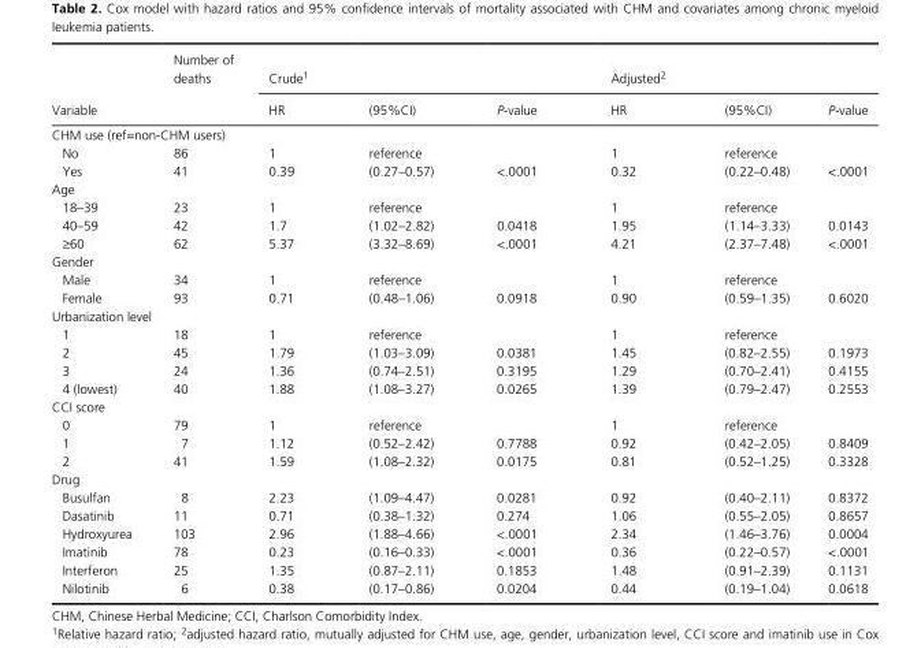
<table><thead><tr><td rowspan="2">Variable</td><td rowspan="2">Number of deaths</td><td colspan="3">Crude<sup>1</sup></td><td colspan="3">Adjusted<sup>2</sup></td></tr><tr><td>HR</td><td>(95%CI)</td><td>P- value</td><td>HR</td><td>(95%CI)</td><td>P- value</td></tr></thead><tbody><tr><td colspan="8">CHM use (ref=non- CHM users)</td></tr><tr><td>No</td><td>86</td><td>1</td><td>reference</td><td></td><td>1</td><td>reference</td><td></td></tr><tr><td>Yes</td><td>41</td><td>0.39</td><td>(0.27–0.57)</td><td>&lt;.0001</td><td>0.32</td><td>(0.22–0.48)</td><td>&lt;.0001</td></tr><tr><td colspan="8">Age</td></tr><tr><td>18–39</td><td>23</td><td>1</td><td>reference</td><td></td><td>1</td><td>reference</td><td></td></tr><tr><td>40–59</td><td>42</td><td>1.7</td><td>(1.02–2.82)</td><td>0.0418</td><td>1.95</td><td>(1.14–3.33)</td><td>0.0143</td></tr><tr><td>≥60</td><td>62</td><td>5.37</td><td>(3.32–8.69)</td><td>&lt;.0001</td><td>4.21</td><td>(2.37–7.48)</td><td>&lt;.0001</td></tr><tr><td colspan="8">Gender</td></tr><tr><td>Male</td><td>34</td><td>1</td><td>reference</td><td></td><td>1</td><td>reference</td><td></td></tr><tr><td>Female</td><td>93</td><td>0.71</td><td>(0.48–1.06)</td><td>0.0918</td><td>0.90</td><td>(0.59–1.35)</td><td>0.6020</td></tr><tr><td colspan="8">Urbanization level</td></tr><tr><td>1</td><td>18</td><td>1</td><td>reference</td><td></td><td>1</td><td>reference</td><td></td></tr><tr><td>2</td><td>45</td><td>1.79</td><td>(1.03–3.09)</td><td>0.0381</td><td>1.45</td><td>(0.82–2.55)</td><td>0.1973</td></tr><tr><td>3</td><td>24</td><td>1.36</td><td>(0.74–2.51)</td><td>0.3195</td><td>1.29</td><td>(0.70–2.41)</td><td>0.4155</td></tr><tr><td>4 (lowest)</td><td>40</td><td>1.88</td><td>(1.08–3.27)</td><td>0.0265</td><td>1.39</td><td>(0.79–2.47)</td><td>0.2553</td></tr><tr><td colspan="8">CCI score</td></tr><tr><td>0</td><td>79</td><td>1</td><td>reference</td><td></td><td>1</td><td>reference</td><td></td></tr><tr><td>1</td><td>7</td><td>1.12</td><td>(0.52–2.42)</td><td>0.7788</td><td>0.92</td><td>(0.42–2.05)</td><td>0.8409</td></tr><tr><td>2</td><td>41</td><td>1.59</td><td>(1.08–2.32)</td><td>0.0175</td><td>0.81</td><td>(0.52–1.25)</td><td>0.3328</td></tr><tr><td colspan="8">Drug</td></tr><tr><td>Busulfan</td><td>8</td><td>2.23</td><td>(1.09–4.47)</td><td>0.0281</td><td>0.92</td><td>(0.40–2.11)</td><td>0.8372</td></tr><tr><td>Dasatinib</td><td>11</td><td>0.71</td><td>(0.38–1.32)</td><td>0.274</td><td>1.06</td><td>(0.55–2.05)</td><td>0.8657</td></tr><tr><td>Hydroxyurea</td><td>103</td><td>2.96</td><td>(1.88–4.66)</td><td>&lt;.0001</td><td>2.34</td><td>(1.46–3.76)</td><td>0.0004</td></tr><tr><td>Imatinib</td><td>78</td><td>0.23</td><td>(0.16–0.33)</td><td>&lt;.0001</td><td>0.36</td><td>(0.22–0.57)</td><td>&lt;.0001</td></tr><tr><td>Interferon</td><td>25</td><td>1.35</td><td>(0.87–2.11)</td><td>0.1853</td><td>1.48</td><td>(0.91–2.39)</td><td>0.1131</td></tr><tr><td>Nilotinib</td><td>6</td><td>0.38</td><td>(0.17–0.86)</td><td>0.0204</td><td>0.44</td><td>(0.19–1.04)</td><td>0.0618</td></tr></tbody></table>